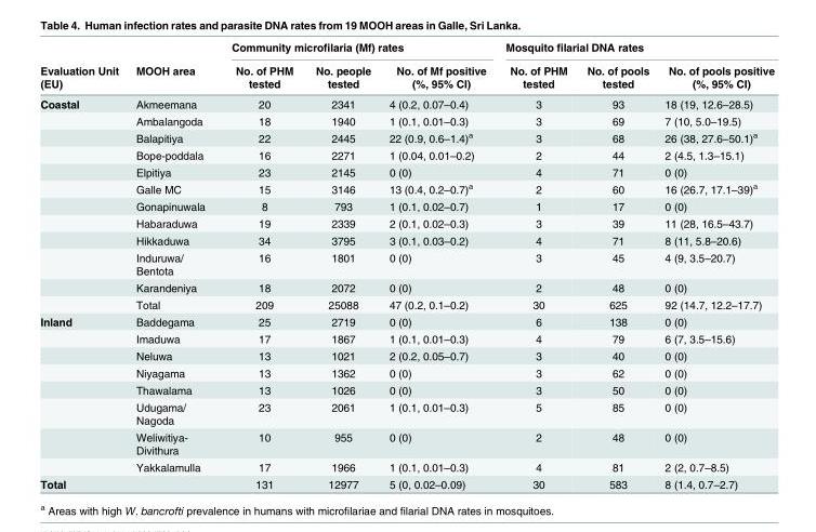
<table><thead><tr><td rowspan="2">Evaluation Unit (EU)</td><td rowspan="2">MOOH area</td><td colspan="3">Community microfilaria (Mf) rates</td><td colspan="3">Mosquito filarial DNA rates</td></tr><tr><td>No. of PHM tested</td><td>No. people tested</td><td>No. of Mf positive (%, 95% CI)</td><td>No. of PHM tested</td><td>No. of pools tested</td><td>No. of pools positive (%, 95% CI)</td></tr></thead><tbody><tr><td rowspan="12">Coastal</td><td>Akmeemana</td><td>20</td><td>2341</td><td>4 (0.2, 0.07–0.4)</td><td>3</td><td>93</td><td>18 (19, 12.6–28.5)</td></tr><tr><td>Ambalangoda</td><td>18</td><td>1940</td><td>1 (0.1, 0.01–0.3)</td><td>3</td><td>69</td><td>7 (10, 5.0–19.5)</td></tr><tr><td>Balapitiya</td><td>22</td><td>2445</td><td>22 (0.9, 0.6–1.4)<sup>a</sup></td><td>3</td><td>68</td><td>26 (38, 27.6–50.1)<sup>a</sup></td></tr><tr><td>Bope-poddala</td><td>16</td><td>2271</td><td>1 (0.04, 0.01–0.2)</td><td>2</td><td>44</td><td>2 (4.5, 1.3–15.1)</td></tr><tr><td>Elpitiya</td><td>23</td><td>2145</td><td>0 (0)</td><td>4</td><td>71</td><td>0 (0)</td></tr><tr><td>Galle MC</td><td>15</td><td>3146</td><td>13 (0.4, 0.2–0.7)<sup>a</sup></td><td>2</td><td>60</td><td>16 (26.7, 17.1–39)<sup>a</sup></td></tr><tr><td>Gonapinuwala</td><td>8</td><td>793</td><td>1 (0.1, 0.02–0.7)</td><td>1</td><td>17</td><td>0 (0)</td></tr><tr><td>Habaraduwa</td><td>19</td><td>2339</td><td>2 (0.1, 0.02–0.3)</td><td>3</td><td>39</td><td>11 (28, 16.5–43.7)</td></tr><tr><td>Hikkaduwa</td><td>34</td><td>3795</td><td>3 (0.1, 0.03–0.2)</td><td>4</td><td>71</td><td>8 (11, 5.8–20.6)</td></tr><tr><td>Induruwa/ Bentota</td><td>16</td><td>1801</td><td>0 (0)</td><td>3</td><td>45</td><td>4 (9, 3.5–20.7)</td></tr><tr><td>Karandeniya</td><td>18</td><td>2072</td><td>0 (0)</td><td>2</td><td>48</td><td>0 (0)</td></tr><tr><td>Total</td><td>209</td><td>25088</td><td>47 (0.2, 0.1–0.2)</td><td>30</td><td>625</td><td>92 (14.7, 12.2–17.7)</td></tr><tr><td rowspan="8">Inland</td><td>Baddegama</td><td>25</td><td>2719</td><td>0 (0)</td><td>6</td><td>138</td><td>0 (0)</td></tr><tr><td>Imaduwa</td><td>17</td><td>1867</td><td>1 (0.1, 0.01–0.3)</td><td>4</td><td>79</td><td>6 (7, 3.5–15.6)</td></tr><tr><td>Neluwa</td><td>13</td><td>1021</td><td>2 (0.2, 0.05–0.7)</td><td>3</td><td>40</td><td>0 (0)</td></tr><tr><td>Niyagama</td><td>13</td><td>1362</td><td>0 (0)</td><td>3</td><td>62</td><td>0 (0)</td></tr><tr><td>Thawalama</td><td>13</td><td>1026</td><td>0 (0)</td><td>3</td><td>50</td><td>0 (0)</td></tr><tr><td>Udugama/ Nagoda</td><td>23</td><td>2061</td><td>1 (0.1, 0.01–0.3)</td><td>5</td><td>85</td><td>0 (0)</td></tr><tr><td>Weliwitiya- Divithura</td><td>10</td><td>955</td><td>0 (0)</td><td>2</td><td>48</td><td>0 (0)</td></tr><tr><td>Yakkalamulla</td><td>17</td><td>1966</td><td>1 (0.1, 0.01–0.3)</td><td>4</td><td>81</td><td>2 (2, 0.7–8.5)</td></tr><tr><td>Total</td><td></td><td>131</td><td>12977</td><td>5 (0, 0.02–0.09)</td><td>30</td><td>583</td><td>8 (1.4, 0.7–2.7)</td></tr></tbody></table>